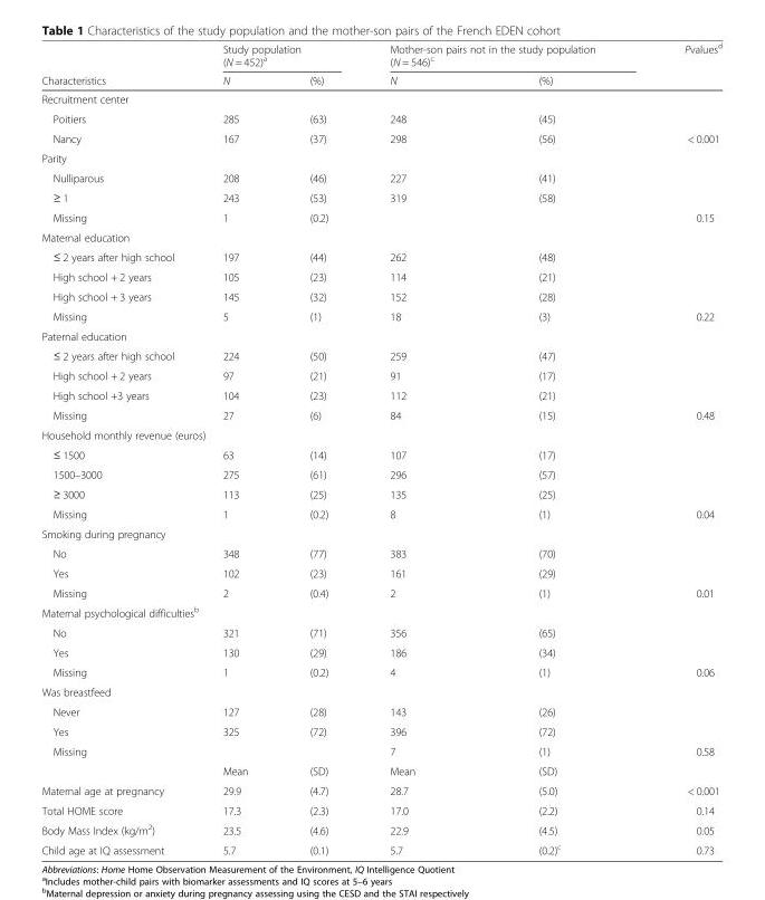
<table><thead><tr><td rowspan="2">Characteristics</td><td colspan="2">Study population (N = 452)<sup>a</sup></td><td colspan="2">Mother-son pairs not in the study population (N = 546)<sup>c</sup></td><td rowspan="2">Pvalues<sup>d</sup></td></tr><tr><td>N</td><td>(%)</td><td>N</td><td>(%)</td></tr></thead><tbody><tr><td colspan="6">Recruitment center</td></tr><tr><td>Poitiers</td><td>285</td><td>(63)</td><td>248</td><td>(45)</td><td></td></tr><tr><td>Nancy</td><td>167</td><td>(37)</td><td>298</td><td>(56)</td><td>&lt; 0.001</td></tr><tr><td colspan="6">Parity</td></tr><tr><td>Nulliparous</td><td>208</td><td>(46)</td><td>227</td><td>(41)</td><td></td></tr><tr><td>≥ 1</td><td>243</td><td>(53)</td><td>319</td><td>(58)</td><td></td></tr><tr><td>Missing</td><td>1</td><td>(0.2)</td><td></td><td></td><td>0.15</td></tr><tr><td colspan="6">Maternal education</td></tr><tr><td>≤ 2 years after high school</td><td>197</td><td>(44)</td><td>262</td><td>(48)</td><td></td></tr><tr><td>High school + 2 years</td><td>105</td><td>(23)</td><td>114</td><td>(21)</td><td></td></tr><tr><td>High school + 3 years</td><td>145</td><td>(32)</td><td>152</td><td>(28)</td><td></td></tr><tr><td>Missing</td><td>5</td><td>(1)</td><td>18</td><td>(3)</td><td>0.22</td></tr><tr><td colspan="6">Paternal education</td></tr><tr><td>≤ 2 years after high school</td><td>224</td><td>(50)</td><td>259</td><td>(47)</td><td></td></tr><tr><td>High school + 2 years</td><td>97</td><td>(21)</td><td>91</td><td>(17)</td><td></td></tr><tr><td>High school +3 years</td><td>104</td><td>(23)</td><td>112</td><td>(21)</td><td></td></tr><tr><td>Missing</td><td>27</td><td>(6)</td><td>84</td><td>(15)</td><td>0.48</td></tr><tr><td colspan="6">Household monthly revenue (euros)</td></tr><tr><td>≤ 1500</td><td>63</td><td>(14)</td><td>107</td><td>(17)</td><td></td></tr><tr><td>1500–3000</td><td>275</td><td>(61)</td><td>296</td><td>(57)</td><td></td></tr><tr><td>≥ 3000</td><td>113</td><td>(25)</td><td>135</td><td>(25)</td><td></td></tr><tr><td>Missing</td><td>1</td><td>(0.2)</td><td>8</td><td>(1)</td><td>0.04</td></tr><tr><td colspan="6">Smoking during pregnancy</td></tr><tr><td>No</td><td>348</td><td>(77)</td><td>383</td><td>(70)</td><td></td></tr><tr><td>Yes</td><td>102</td><td>(23)</td><td>161</td><td>(29)</td><td></td></tr><tr><td>Missing</td><td>2</td><td>(0.4)</td><td>2</td><td>(1)</td><td>0.01</td></tr><tr><td colspan="6">Maternal psychological difficulties<sup>b</sup></td></tr><tr><td>No</td><td>321</td><td>(71)</td><td>356</td><td>(65)</td><td></td></tr><tr><td>Yes</td><td>130</td><td>(29)</td><td>186</td><td>(34)</td><td></td></tr><tr><td>Missing</td><td>1</td><td>(0.2)</td><td>4</td><td>(1)</td><td>0.06</td></tr><tr><td colspan="6">Was breastfeed</td></tr><tr><td>Never</td><td>127</td><td>(28)</td><td>143</td><td>(26)</td><td></td></tr><tr><td>Yes</td><td>325</td><td>(72)</td><td>396</td><td>(72)</td><td></td></tr><tr><td rowspan="2">Missing</td><td></td><td></td><td>7</td><td>(1)</td><td>0.58</td></tr><tr><td>Mean</td><td>(SD)</td><td>Mean</td><td>(SD)</td><td></td></tr><tr><td>Maternal age at pregnancy</td><td>29.9</td><td>(4.7)</td><td>28.7</td><td>(5.0)</td><td>&lt; 0.001</td></tr><tr><td>Total HOME score</td><td>17.3</td><td>(2.3)</td><td>17.0</td><td>(2.2)</td><td>0.14</td></tr><tr><td>Body Mass Index (kg/m<sup>2</sup>)</td><td>23.5</td><td>(4.6)</td><td>22.9</td><td>(4.5)</td><td>0.05</td></tr><tr><td>Child age at IQ assessment</td><td>5.7</td><td>(0.1)</td><td>5.7</td><td>(0.2)<sup>c</sup></td><td>0.73</td></tr></tbody></table>